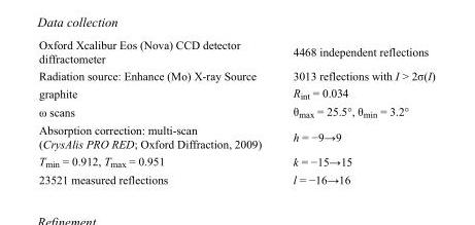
<table><tbody><tr><td>Oxford Xcalibur Eos (Nova) CCD detector diffractometer</td><td>4468 independent reflections</td></tr><tr><td>Radiation source: Enhance (Mo) X-ray Source</td><td>3013 reflections with I &gt; 2σ(I)</td></tr><tr><td>graphite</td><td>R<sub>int</sub> = 0.034</td></tr><tr><td>ω scans</td><td>θ<sub>max</sub> = 25.5°, θ<sub>min</sub> = 3.2°</td></tr><tr><td>Absorption correction: multi-scan (CrysAlis PRO RED; Oxford Diffraction, 2009)</td><td>h = −9→9</td></tr><tr><td>T<sub>min</sub> = 0.912, T<sub>max</sub> = 0.951</td><td>k = −15→15</td></tr><tr><td>23521 measured reflections</td><td>l = −16→16</td></tr></tbody></table>